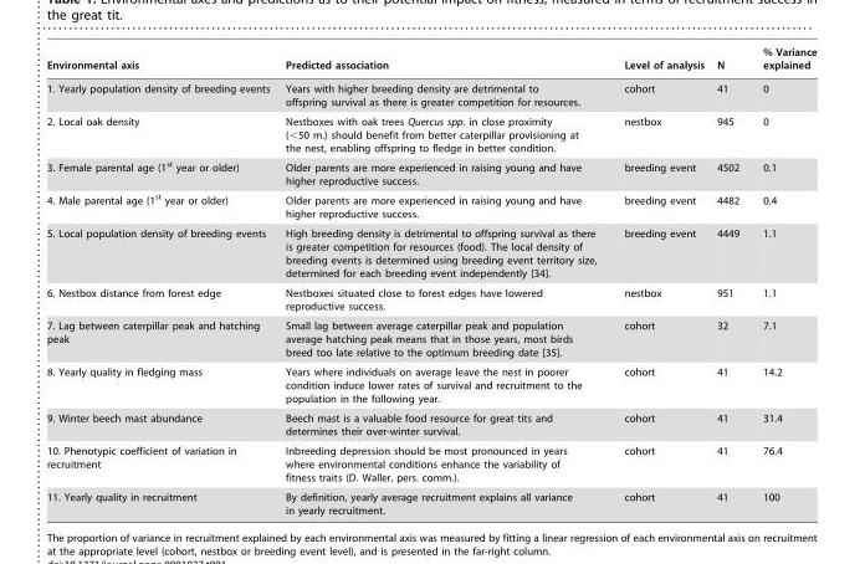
<table><thead><tr><td>Environmental axis</td><td>Predicted association</td><td>Level of analysis</td><td>N</td><td>% Variance explained</td></tr></thead><tbody><tr><td>1. Yearly population density of breeding events</td><td>Years with higher breeding density are detrimental to offspring survival as there is greater competition for resources.</td><td>cohort</td><td>41</td><td>0</td></tr><tr><td>2. Local oak density</td><td>Nestboxes with oak trees Quercus spp. in close proximity (&lt;50 m.) should benefit from better caterpillar provisioning at the nest, enabling offspring to fledge in better condition.</td><td>nestbox</td><td>945</td><td>0</td></tr><tr><td>3. Female parental age (1<sup>st</sup> year or older)</td><td>Older parents are more experienced in raising young and have higher reproductive success.</td><td>breeding event</td><td>4502</td><td>0.1</td></tr><tr><td>4. Male parental age (1<sup>st</sup> year or older)</td><td>Older parents are more experienced in raising young and have higher reproductive success.</td><td>breeding event</td><td>4482</td><td>0.4</td></tr><tr><td>5. Local population density of breeding events</td><td>High breeding density is detrimental to offspring survival as there is greater competition for resources (food). The local density of breeding events is determined using breeding event territory size, determined for each breeding event independently [34].</td><td>breeding event</td><td>4449</td><td>1.1</td></tr><tr><td>6. Nestbox distance from forest edge</td><td>Nestboxes situated close to forest edges have lowered reproductive success.</td><td>nestbox</td><td>951</td><td>1.1</td></tr><tr><td>7. Lag between caterpillar peak and hatching peak</td><td>Small lag between average caterpillar peak and population average hatching peak means that in those years, most birds breed too late relative to the optimum breeding date [35].</td><td>cohort</td><td>32</td><td>7.1</td></tr><tr><td>8. Yearly quality in fledging mass</td><td>Years where individuals on average leave the nest in poorer condition induce lower rates of survival and recruitment to the population in the following year.</td><td>cohort</td><td>41</td><td>14.2</td></tr><tr><td>9. Winter beech mast abundance</td><td>Beech mast is a valuable food resource for great tits and determines their over-winter survival.</td><td>cohort</td><td>41</td><td>31.4</td></tr><tr><td>10. Phenotypic coefficient of variation in recruitment</td><td>Inbreeding depression should be most pronounced in years where environmental conditions enhance the variability of fitness traits (D. Waller, pers. comm.).</td><td>cohort</td><td>41</td><td>76.4</td></tr><tr><td>11. Yearly quality in recruitment</td><td>By definition, yearly average recruitment explains all variance in yearly recruitment.</td><td>cohort</td><td>41</td><td>100</td></tr></tbody></table>